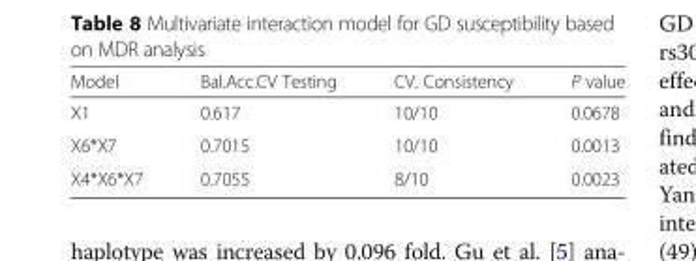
<table><thead><tr><td>Model</td><td>Bal.Acc.CV Testing</td><td>CV. Consistency</td><td>P value</td></tr></thead><tbody><tr><td>X1</td><td>0.617</td><td>10/10</td><td>0.0678</td></tr><tr><td>X6*X7</td><td>0.7015</td><td>10/10</td><td>0.0013</td></tr><tr><td>X4*X6*X7</td><td>0.7055</td><td>8/10</td><td>0.0023</td></tr></tbody></table>